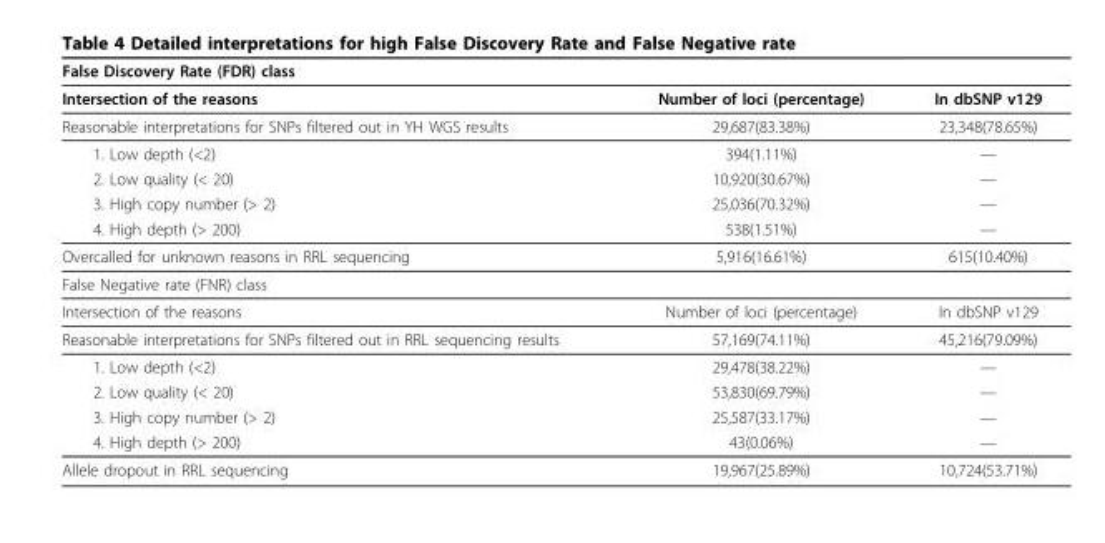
<table><thead><tr><td>False Discovery Rate (FDR) class</td><td></td><td></td></tr></thead><tbody><tr><td>Intersection of the reasons</td><td>Number of loci (percentage)</td><td>In dbSNP v129</td></tr><tr><td>Reasonable interpretations for SNPs filtered out in YH WGS results</td><td>29,687(83.38%)</td><td>23,348(78.65%)</td></tr><tr><td>1. Low depth (&lt;2)</td><td>394(1.11%)</td><td>—</td></tr><tr><td>2. Low quality (&lt; 20)</td><td>10,920(30.67%)</td><td>—</td></tr><tr><td>3. High copy number (&gt; 2)</td><td>25,036(70.32%)</td><td>—</td></tr><tr><td>4. High depth (&gt; 200)</td><td>538(1.51%)</td><td>—</td></tr><tr><td>Overcalled for unknown reasons in RRL sequencing</td><td>5,916(16.61%)</td><td>615(10.40%)</td></tr><tr><td colspan="3">False Negative rate (FNR) class</td></tr><tr><td>Intersection of the reasons</td><td>Number of loci (percentage)</td><td>In dbSNP v129</td></tr><tr><td>Reasonable interpretations for SNPs filtered out in RRL sequencing results</td><td>57,169(74.11%)</td><td>45,216(79.09%)</td></tr><tr><td>1. Low depth (&lt;2)</td><td>29,478(38.22%)</td><td>—</td></tr><tr><td>2. Low quality (&lt; 20)</td><td>53,830(69.79%)</td><td>—</td></tr><tr><td>3. High copy number (&gt; 2)</td><td>25,587(33.17%)</td><td>—</td></tr><tr><td>4. High depth (&gt; 200)</td><td>43(0.06%)</td><td>—</td></tr><tr><td>Allele dropout in RRL sequencing</td><td>19,967(25.89%)</td><td>10,724(53.71%)</td></tr></tbody></table>